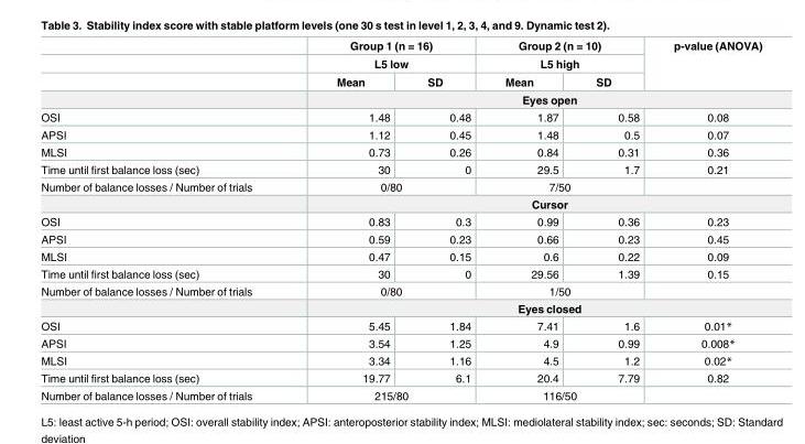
<table><thead><tr><td rowspan="3"></td><td rowspan="2" colspan="2">Group 1 (n = 16) L5 low</td><td rowspan="2" colspan="2">Group 2 (n = 10) L5 high</td><td rowspan="3">p-value (ANOVA)</td></tr><tr></tr><tr><td>Mean</td><td>SD</td><td>Mean</td><td>SD</td></tr></thead><tbody><tr><td></td><td colspan="5">Eyes open</td></tr><tr><td>OSI</td><td>1.48</td><td>0.48</td><td>1.87</td><td>0.58</td><td>0.08</td></tr><tr><td>APSI</td><td>1.12</td><td>0.45</td><td>1.48</td><td>0.5</td><td>0.07</td></tr><tr><td>MLSI</td><td>0.73</td><td>0.26</td><td>0.84</td><td>0.31</td><td>0.36</td></tr><tr><td>Time until first balance loss (sec)</td><td>30</td><td>0</td><td>29.5</td><td>1.7</td><td>0.21</td></tr><tr><td rowspan="2">Number of balance losses / Number of trials</td><td colspan="2">0/80</td><td colspan="2">7/50</td><td></td></tr><tr><td colspan="5">Cursor</td></tr><tr><td>OSI</td><td>0.83</td><td>0.3</td><td>0.99</td><td>0.36</td><td>0.23</td></tr><tr><td>APSI</td><td>0.59</td><td>0.23</td><td>0.66</td><td>0.23</td><td>0.45</td></tr><tr><td>MLSI</td><td>0.47</td><td>0.15</td><td>0.6</td><td>0.22</td><td>0.09</td></tr><tr><td>Time until first balance loss (sec)</td><td>30</td><td>0</td><td>29.56</td><td>1.39</td><td>0.15</td></tr><tr><td rowspan="2">Number of balance losses / Number of trials</td><td colspan="2">0/80</td><td colspan="2">1/50</td><td></td></tr><tr><td colspan="5">Eyes closed</td></tr><tr><td>OSI</td><td>5.45</td><td>1.84</td><td>7.41</td><td>1.6</td><td>0.01*</td></tr><tr><td>APSI</td><td>3.54</td><td>1.25</td><td>4.9</td><td>0.99</td><td>0.008*</td></tr><tr><td>MLSI</td><td>3.34</td><td>1.16</td><td>4.5</td><td>1.2</td><td>0.02*</td></tr><tr><td>Time until first balance loss (sec)</td><td>19.77</td><td>6.1</td><td>20.4</td><td>7.79</td><td>0.82</td></tr><tr><td>Number of balance losses / Number of trials</td><td colspan="2">215/80</td><td colspan="2">116/50</td><td></td></tr></tbody></table>